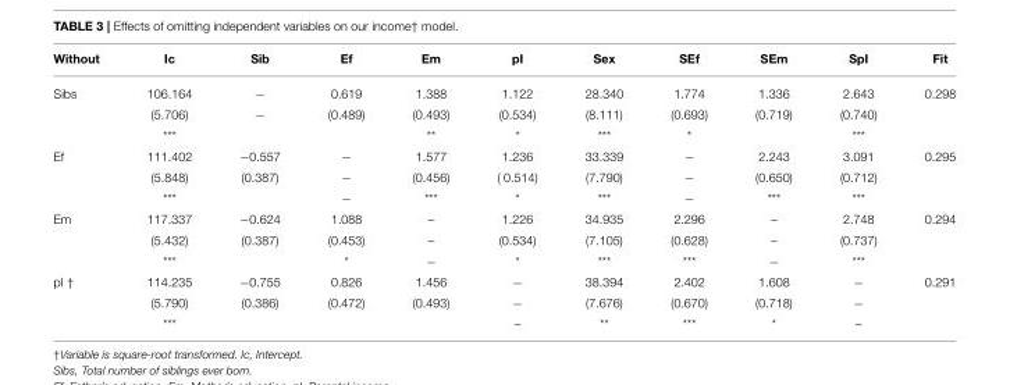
<table><thead><tr><td>Without</td><td>Ic</td><td>Sib</td><td>Ef</td><td>Em</td><td>pI</td><td>Sex</td><td>SEf</td><td>SEm</td><td>SpI</td><td>Fit</td></tr></thead><tbody><tr><td rowspan="3">Sibs</td><td>106.164</td><td>−</td><td>0.619</td><td>1.388</td><td>1.122</td><td>28.340</td><td>1.774</td><td>1.336</td><td>2.643</td><td>0.298</td></tr><tr><td>(5.706)</td><td>−</td><td>(0.489)</td><td>(0.493)</td><td>(0.534)</td><td>(8.111)</td><td>(0.693)</td><td>(0.719)</td><td>(0.740)</td><td></td></tr><tr><td>***</td><td></td><td></td><td>**</td><td>*</td><td>***</td><td>*</td><td></td><td>***</td><td></td></tr><tr><td rowspan="3">Ef</td><td>111.402</td><td>−0.557</td><td>−</td><td>1.577</td><td>1.236</td><td>33.339</td><td>−</td><td>2.243</td><td>3.091</td><td>0.295</td></tr><tr><td>(5.848)</td><td>(0.387)</td><td>−</td><td>(0.456)</td><td>( 0.514)</td><td>(7.790)</td><td>−</td><td>(0.650)</td><td>(0.712)</td><td></td></tr><tr><td>***</td><td></td><td>−</td><td>***</td><td>*</td><td>***</td><td>−</td><td>***</td><td>***</td><td></td></tr><tr><td rowspan="3">Em</td><td>117.337</td><td>−0.624</td><td>1.088</td><td>–</td><td>1.226</td><td>34.935</td><td>2.296</td><td>–</td><td>2.748</td><td>0.294</td></tr><tr><td>(5.432)</td><td>(0.387)</td><td>(0.453)</td><td>–</td><td>(0.534)</td><td>(7.105)</td><td>(0.628)</td><td>–</td><td>(0.737)</td><td></td></tr><tr><td>***</td><td></td><td>*</td><td>−</td><td>*</td><td>***</td><td>***</td><td>−</td><td>***</td><td></td></tr><tr><td rowspan="3">pI †</td><td>114.235</td><td>−0.755</td><td>0.826</td><td>1.456</td><td>−</td><td>38.394</td><td>2.402</td><td>1.608</td><td>−</td><td>0.291</td></tr><tr><td>(5.790)</td><td>(0.386)</td><td>(0.472)</td><td>(0.493)</td><td>−</td><td>(7.676)</td><td>(0.670)</td><td>(0.718)</td><td>−</td><td></td></tr><tr><td>***</td><td></td><td></td><td></td><td>–</td><td>**</td><td>***</td><td>*</td><td>–</td><td></td></tr></tbody></table>